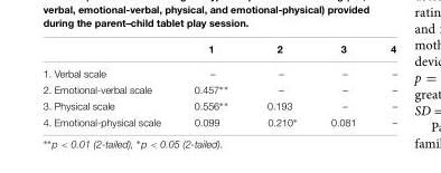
<table><thead><tr><td></td><td>1</td><td>2</td><td>3</td><td>4</td></tr></thead><tbody><tr><td>1. Verbal scale</td><td>–</td><td>–</td><td>–</td><td>–</td></tr><tr><td>2. Emotional-verbal scale</td><td>0.457∗∗</td><td>–</td><td>–</td><td>–</td></tr><tr><td>3. Physical scale</td><td>0.556∗∗</td><td>0.193</td><td>–</td><td>–</td></tr><tr><td>4. Emotional-physical scale</td><td>0.099</td><td>0.210∗</td><td>0.081</td><td>–</td></tr></tbody></table>